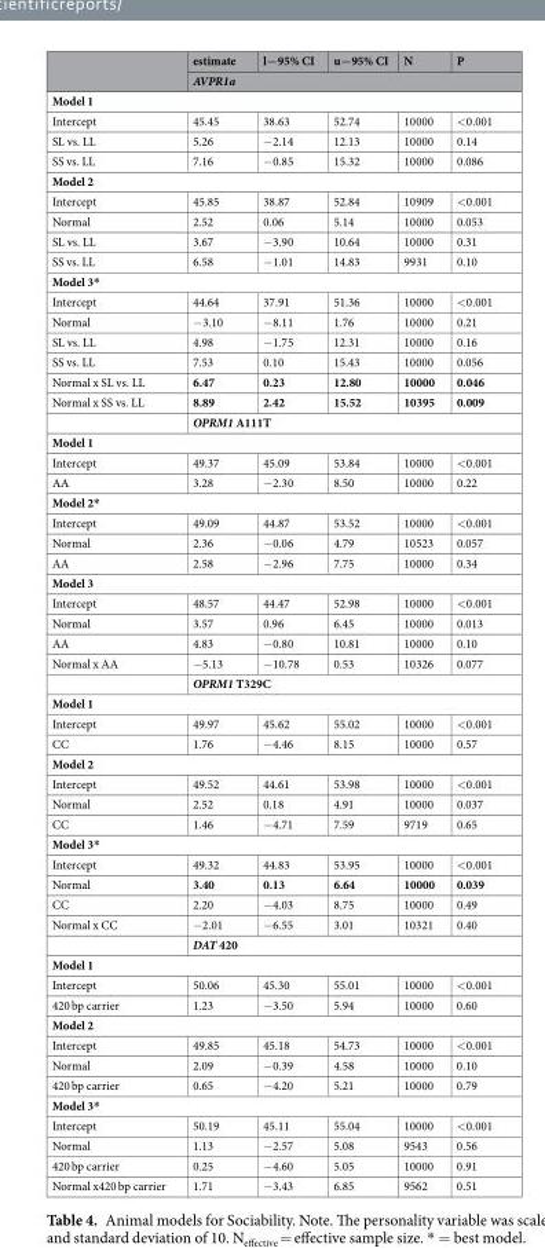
<table><thead><tr><td rowspan="2"></td><td>estimate</td><td>l−95% CI</td><td>u−95% CI</td><td>N</td><td>P</td></tr><tr><td colspan="5">AVPR1a</td></tr></thead><tbody><tr><td colspan="6">Model 1</td></tr><tr><td>Intercept</td><td>45.45</td><td>38.63</td><td>52.74</td><td>10000</td><td>&lt;0.001</td></tr><tr><td>SL vs. LL</td><td>5.26</td><td>−2.14</td><td>12.13</td><td>10000</td><td>0.14</td></tr><tr><td>SS vs. LL</td><td>7.16</td><td>−0.85</td><td>15.32</td><td>10000</td><td>0.086</td></tr><tr><td colspan="6">Model 2</td></tr><tr><td>Intercept</td><td>45.85</td><td>38.87</td><td>52.84</td><td>10909</td><td>&lt;0.001</td></tr><tr><td>Normal</td><td>2.52</td><td>0.06</td><td>5.14</td><td>10000</td><td>0.053</td></tr><tr><td>SL vs. LL</td><td>3.67</td><td>−3.90</td><td>10.64</td><td>10000</td><td>0.31</td></tr><tr><td>SS vs. LL</td><td>6.58</td><td>−1.01</td><td>14.83</td><td>9931</td><td>0.10</td></tr><tr><td colspan="6">Model 3*</td></tr><tr><td>Intercept</td><td>44.64</td><td>37.91</td><td>51.36</td><td>10000</td><td>&lt;0.001</td></tr><tr><td>Normal</td><td>−3.10</td><td>−8.11</td><td>1.76</td><td>10000</td><td>0.21</td></tr><tr><td>SL vs. LL</td><td>4.98</td><td>−1.75</td><td>12.31</td><td>10000</td><td>0.16</td></tr><tr><td>SS vs. LL</td><td>7.53</td><td>0.10</td><td>15.43</td><td>10000</td><td>0.056</td></tr><tr><td>Normal x SL vs. LL</td><td>6.47</td><td>0.23</td><td>12.80</td><td>10000</td><td>0.046</td></tr><tr><td rowspan="2">Normal x SS vs. LL</td><td>8.89</td><td>2.42</td><td>15.52</td><td>10395</td><td>0.009</td></tr><tr><td colspan="5">OPRM1 A111T</td></tr><tr><td colspan="6">Model 1</td></tr><tr><td>Intercept</td><td>49.37</td><td>45.09</td><td>53.84</td><td>10000</td><td>&lt;0.001</td></tr><tr><td>AA</td><td>3.28</td><td>−2.30</td><td>8.50</td><td>10000</td><td>0.22</td></tr><tr><td colspan="6">Model 2*</td></tr><tr><td>Intercept</td><td>49.09</td><td>44.87</td><td>53.52</td><td>10000</td><td>&lt;0.001</td></tr><tr><td>Normal</td><td>2.36</td><td>−0.06</td><td>4.79</td><td>10523</td><td>0.057</td></tr><tr><td>AA</td><td>2.58</td><td>−2.96</td><td>7.75</td><td>10000</td><td>0.34</td></tr><tr><td colspan="6">Model 3</td></tr><tr><td>Intercept</td><td>48.57</td><td>44.47</td><td>52.98</td><td>10000</td><td>&lt;0.001</td></tr><tr><td>Normal</td><td>3.57</td><td>0.96</td><td>6.45</td><td>10000</td><td>0.013</td></tr><tr><td>AA</td><td>4.83</td><td>−0.80</td><td>10.81</td><td>10000</td><td>0.10</td></tr><tr><td rowspan="2">Normal x AA</td><td>−5.13</td><td>−10.78</td><td>0.53</td><td>10326</td><td>0.077</td></tr><tr><td colspan="5">OPRM1 T329C</td></tr><tr><td colspan="6">Model 1</td></tr><tr><td>Intercept</td><td>49.97</td><td>45.62</td><td>55.02</td><td>10000</td><td>&lt;0.001</td></tr><tr><td>CC</td><td>1.76</td><td>−4.46</td><td>8.15</td><td>10000</td><td>0.57</td></tr><tr><td colspan="6">Model 2</td></tr><tr><td>Intercept</td><td>49.52</td><td>44.61</td><td>53.98</td><td>10000</td><td>&lt;0.001</td></tr><tr><td>Normal</td><td>2.52</td><td>0.18</td><td>4.91</td><td>10000</td><td>0.037</td></tr><tr><td>CC</td><td>1.46</td><td>−4.71</td><td>7.59</td><td>9719</td><td>0.65</td></tr><tr><td colspan="6">Model 3*</td></tr><tr><td>Intercept</td><td>49.32</td><td>44.83</td><td>53.95</td><td>10000</td><td>&lt;0.001</td></tr><tr><td>Normal</td><td>3.40</td><td>0.13</td><td>6.64</td><td>10000</td><td>0.039</td></tr><tr><td>CC</td><td>2.20</td><td>−4.03</td><td>8.75</td><td>10000</td><td>0.49</td></tr><tr><td rowspan="2">Normal x CC</td><td>−2.01</td><td>−6.55</td><td>3.01</td><td>10321</td><td>0.40</td></tr><tr><td colspan="5">DAT 420</td></tr><tr><td colspan="6">Model 1</td></tr><tr><td>Intercept</td><td>50.06</td><td>45.30</td><td>55.01</td><td>10000</td><td>&lt;0.001</td></tr><tr><td>420 bp carrier</td><td>1.23</td><td>−3.50</td><td>5.94</td><td>10000</td><td>0.60</td></tr><tr><td colspan="6">Model 2</td></tr><tr><td>Intercept</td><td>49.85</td><td>45.18</td><td>54.73</td><td>10000</td><td>&lt;0.001</td></tr><tr><td>Normal</td><td>2.09</td><td>−0.39</td><td>4.58</td><td>10000</td><td>0.10</td></tr><tr><td>420 bp carrier</td><td>0.65</td><td>−4.20</td><td>5.21</td><td>10000</td><td>0.79</td></tr><tr><td colspan="6">Model 3*</td></tr><tr><td>Intercept</td><td>50.19</td><td>45.11</td><td>55.04</td><td>10000</td><td>&lt;0.001</td></tr><tr><td>Normal</td><td>1.13</td><td>−2.57</td><td>5.08</td><td>9543</td><td>0.56</td></tr><tr><td>420 bp carrier</td><td>0.25</td><td>−4.60</td><td>5.05</td><td>10000</td><td>0.91</td></tr><tr><td>Normal x420 bp carrier</td><td>1.71</td><td>−3.43</td><td>6.85</td><td>9562</td><td>0.51</td></tr></tbody></table>